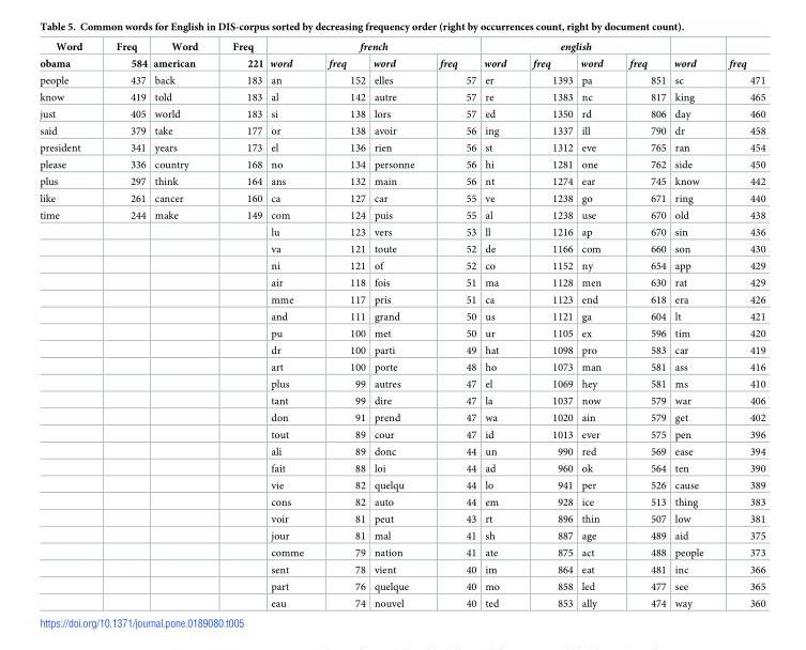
<table><thead><tr><td rowspan="2">Word obama</td><td rowspan="2">Freq 584</td><td rowspan="2">Word american</td><td rowspan="2">Freq 221</td><td colspan="4">french</td><td colspan="4">english</td><td rowspan="2">word</td><td rowspan="2">freq</td></tr><tr><td>word</td><td>freq</td><td>word</td><td>freq</td><td>word</td><td>freq</td><td>word</td><td>freq</td></tr></thead><tbody><tr><td>people</td><td>437</td><td>back</td><td>183</td><td>an</td><td>152</td><td>elles</td><td>57</td><td>er</td><td>1393</td><td>pa</td><td>851</td><td>sc</td><td>471</td></tr><tr><td>know</td><td>419</td><td>told</td><td>183</td><td>al</td><td>142</td><td>autre</td><td>57</td><td>re</td><td>1383</td><td>nc</td><td>817</td><td>king</td><td>465</td></tr><tr><td>just</td><td>405</td><td>world</td><td>183</td><td>si</td><td>138</td><td>lors</td><td>57</td><td>ed</td><td>1350</td><td>rd</td><td>806</td><td>day</td><td>460</td></tr><tr><td>said</td><td>379</td><td>take</td><td>177</td><td>or</td><td>138</td><td>avoir</td><td>56</td><td>ing</td><td>1337</td><td>ill</td><td>790</td><td>dr</td><td>458</td></tr><tr><td>president</td><td>341</td><td>years</td><td>173</td><td>el</td><td>136</td><td>rien</td><td>56</td><td>st</td><td>1312</td><td>eve</td><td>765</td><td>ran</td><td>454</td></tr><tr><td>please</td><td>336</td><td>country</td><td>168</td><td>no</td><td>134</td><td>personne</td><td>56</td><td>hi</td><td>1281</td><td>one</td><td>762</td><td>side</td><td>450</td></tr><tr><td>plus</td><td>297</td><td>think</td><td>164</td><td>ans</td><td>132</td><td>main</td><td>56</td><td>nt</td><td>1274</td><td>ear</td><td>745</td><td>know</td><td>442</td></tr><tr><td>like</td><td>261</td><td>cancer</td><td>160</td><td>ca</td><td>127</td><td>car</td><td>55</td><td>ve</td><td>1238</td><td>go</td><td>671</td><td>ring</td><td>440</td></tr><tr><td rowspan="24">time</td><td>244</td><td>make</td><td>149</td><td>com</td><td>124</td><td>puis</td><td>55</td><td>al</td><td>1238</td><td>use</td><td>670</td><td>old</td><td>438</td></tr><tr><td></td><td></td><td></td><td>lu</td><td>123</td><td>vers</td><td>53</td><td>ll</td><td>1216</td><td>ap</td><td>670</td><td>sin</td><td>436</td></tr><tr><td></td><td></td><td></td><td>va</td><td>121</td><td>toute</td><td>52</td><td>de</td><td>1166</td><td>com</td><td>660</td><td>son</td><td>430</td></tr><tr><td></td><td></td><td></td><td>ni</td><td>121</td><td>of</td><td>52</td><td>co</td><td>1152</td><td>ny</td><td>654</td><td>app</td><td>429</td></tr><tr><td></td><td></td><td></td><td>air</td><td>118</td><td>fois</td><td>51</td><td>ma</td><td>1128</td><td>men</td><td>630</td><td>rat</td><td>429</td></tr><tr><td></td><td></td><td></td><td>mme</td><td>117</td><td>pris</td><td>51</td><td>ca</td><td>1123</td><td>end</td><td>618</td><td>era</td><td>426</td></tr><tr><td></td><td></td><td></td><td>and</td><td>111</td><td>grand</td><td>50</td><td>us</td><td>1121</td><td>ga</td><td>604</td><td>lt</td><td>421</td></tr><tr><td></td><td></td><td></td><td>pu</td><td>100</td><td>met</td><td>50</td><td>ur</td><td>1105</td><td>ex</td><td>596</td><td>tim</td><td>420</td></tr><tr><td></td><td></td><td></td><td>dr</td><td>100</td><td>parti</td><td>49</td><td>hat</td><td>1098</td><td>pro</td><td>583</td><td>car</td><td>419</td></tr><tr><td></td><td></td><td></td><td>art</td><td>100</td><td>porte</td><td>48</td><td>ho</td><td>1073</td><td>man</td><td>581</td><td>ass</td><td>416</td></tr><tr><td></td><td></td><td></td><td>plus</td><td>99</td><td>autres</td><td>47</td><td>el</td><td>1069</td><td>hey</td><td>581</td><td>ms</td><td>410</td></tr><tr><td></td><td></td><td></td><td>tant</td><td>99</td><td>dire</td><td>47</td><td>la</td><td>1037</td><td>now</td><td>579</td><td>war</td><td>406</td></tr><tr><td></td><td></td><td></td><td>don</td><td>91</td><td>prend</td><td>47</td><td>wa</td><td>1020</td><td>ain</td><td>579</td><td>get</td><td>402</td></tr><tr><td></td><td></td><td></td><td>tout</td><td>89</td><td>cour</td><td>47</td><td>id</td><td>1013</td><td>ever</td><td>575</td><td>pen</td><td>396</td></tr><tr><td></td><td></td><td></td><td>ali</td><td>89</td><td>donc</td><td>44</td><td>un</td><td>990</td><td>red</td><td>569</td><td>ease</td><td>394</td></tr><tr><td></td><td></td><td></td><td>fait</td><td>88</td><td>loi</td><td>44</td><td>ad</td><td>960</td><td>ok</td><td>564</td><td>ten</td><td>390</td></tr><tr><td></td><td></td><td></td><td>vie</td><td>82</td><td>quelqu</td><td>44</td><td>lo</td><td>941</td><td>per</td><td>526</td><td>cause</td><td>389</td></tr><tr><td></td><td></td><td></td><td>cons</td><td>82</td><td>auto</td><td>44</td><td>em</td><td>928</td><td>ice</td><td>513</td><td>thing</td><td>383</td></tr><tr><td></td><td></td><td></td><td>voir</td><td>81</td><td>peut</td><td>43</td><td>rt</td><td>896</td><td>thin</td><td>507</td><td>low</td><td>381</td></tr><tr><td></td><td></td><td></td><td>jour</td><td>81</td><td>mal</td><td>41</td><td>sh</td><td>887</td><td>age</td><td>489</td><td>aid</td><td>375</td></tr><tr><td></td><td></td><td></td><td>comme</td><td>79</td><td>nation</td><td>41</td><td>ate</td><td>875</td><td>act</td><td>488</td><td>people</td><td>373</td></tr><tr><td></td><td></td><td></td><td>sent</td><td>78</td><td>vient</td><td>40</td><td>im</td><td>864</td><td>eat</td><td>481</td><td>inc</td><td>366</td></tr><tr><td></td><td></td><td></td><td>part</td><td>76</td><td>quelque</td><td>40</td><td>mo</td><td>858</td><td>led</td><td>477</td><td>see</td><td>365</td></tr><tr><td></td><td></td><td></td><td>eau</td><td>74</td><td>nouvel</td><td>40</td><td>ted</td><td>853</td><td>ally</td><td>474</td><td>way</td><td>360</td></tr></tbody></table>